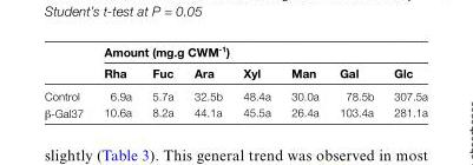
<table><thead><tr><td rowspan="2"></td><td colspan="7">Amount (mg.g CWM<sup>-1</sup>)</td></tr><tr><td>Rha</td><td>Fuc</td><td>Ara</td><td>Xyl</td><td>Man</td><td>Gal</td><td>Glc</td></tr></thead><tbody><tr><td>Control</td><td>6.9a</td><td>5.7a</td><td>32.5b</td><td>48.4a</td><td>30.0a</td><td>78.5b</td><td>307.5a</td></tr><tr><td>β-Gal37</td><td>10.6a</td><td>8.2a</td><td>44.1a</td><td>45.5a</td><td>26.4a</td><td>103.4a</td><td>281.1a</td></tr></tbody></table>